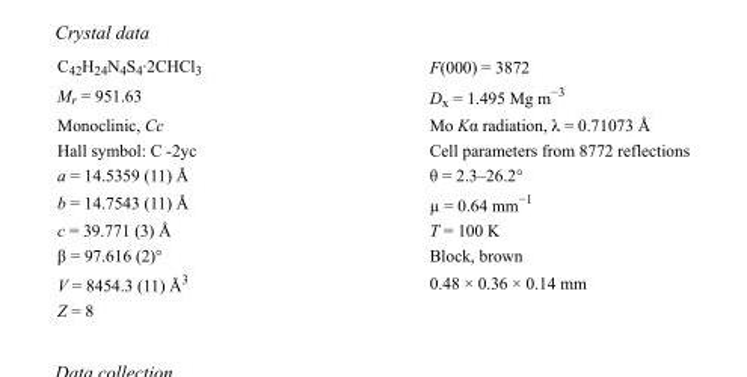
<table><tbody><tr><td>C<sub>42</sub>H<sub>24</sub>N<sub>4</sub>S<sub>4</sub>·2CHCl<sub>3</sub></td><td>F(000) = 3872</td></tr><tr><td>M<sub>r</sub> = 951.63</td><td>D<sub>x</sub> = 1.495 Mg m<sup>−3</sup></td></tr><tr><td>Monoclinic, Cc</td><td>Mo Kα radiation, λ = 0.71073 Å</td></tr><tr><td>Hall symbol: C -2yc</td><td>Cell parameters from 8772 reflections</td></tr><tr><td>a = 14.5359 (11) Å</td><td>θ = 2.3–26.2°</td></tr><tr><td>b = 14.7543 (11) Å</td><td>µ = 0.64 mm<sup>−1</sup></td></tr><tr><td>c = 39.771 (3) Å</td><td>T = 100 K</td></tr><tr><td>β = 97.616 (2)°</td><td>Block, brown</td></tr><tr><td>V = 8454.3 (11) Å<sup>3</sup></td><td>0.48 × 0.36 × 0.14 mm</td></tr><tr><td>Z = 8</td><td></td></tr></tbody></table>